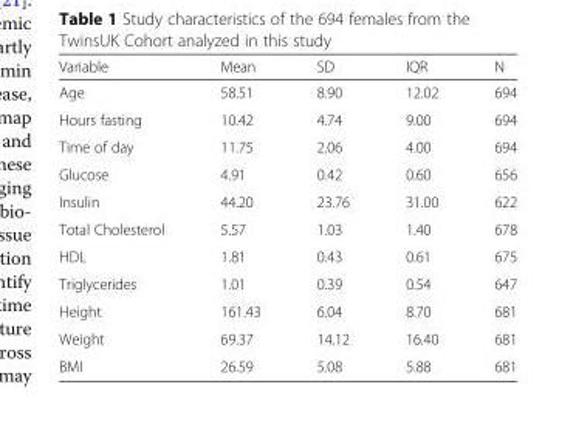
<table><thead><tr><td>Variable</td><td>Mean</td><td>SD</td><td>IQR</td><td>N</td></tr></thead><tbody><tr><td>Age</td><td>58.51</td><td>8.90</td><td>12.02</td><td>694</td></tr><tr><td>Hours fasting</td><td>10.42</td><td>4.74</td><td>9.00</td><td>694</td></tr><tr><td>Time of day</td><td>11.75</td><td>2.06</td><td>4.00</td><td>694</td></tr><tr><td>Glucose</td><td>4.91</td><td>0.42</td><td>0.60</td><td>656</td></tr><tr><td>Insulin</td><td>44.20</td><td>23.76</td><td>31.00</td><td>622</td></tr><tr><td>Total Cholesterol</td><td>5.57</td><td>1.03</td><td>1.40</td><td>678</td></tr><tr><td>HDL</td><td>1.81</td><td>0.43</td><td>0.61</td><td>675</td></tr><tr><td>Triglycerides</td><td>1.01</td><td>0.39</td><td>0.54</td><td>647</td></tr><tr><td>Height</td><td>161.43</td><td>6.04</td><td>8.70</td><td>681</td></tr><tr><td>Weight</td><td>69.37</td><td>14.12</td><td>16.40</td><td>681</td></tr><tr><td>BMI</td><td>26.59</td><td>5.08</td><td>5.88</td><td>681</td></tr></tbody></table>